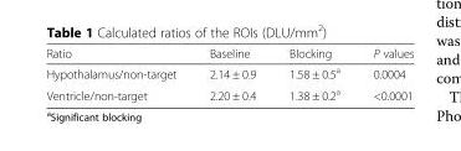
<table><thead><tr><td>Ratio</td><td>Baseline</td><td>Blocking</td><td>P values</td></tr></thead><tbody><tr><td>Hypothalamus/non-target</td><td>2.14 ± 0.9</td><td>1.58 ± 0.5<sup>a</sup></td><td>0.0004</td></tr><tr><td>Ventricle/non-target</td><td>2.20 ± 0.4</td><td>1.38 ± 0.2<sup>a</sup></td><td>&lt;0.0001</td></tr></tbody></table>